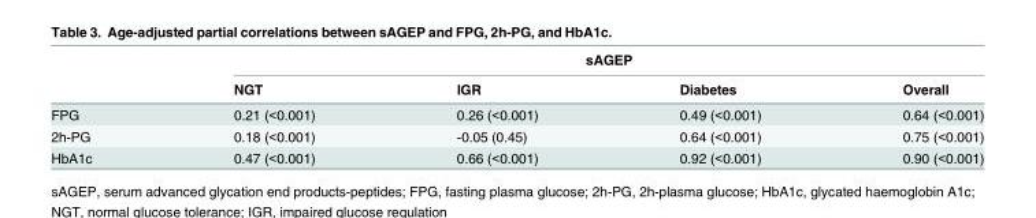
<table><thead><tr><td rowspan="2"></td><td colspan="4">sAGEP</td></tr><tr><td>NGT</td><td>IGR</td><td>Diabetes</td><td>Overall</td></tr></thead><tbody><tr><td>FPG</td><td>0.21 (&lt;0.001)</td><td>0.26 (&lt;0.001)</td><td>0.49 (&lt;0.001)</td><td>0.64 (&lt;0.001)</td></tr><tr><td>2h-PG</td><td>0.18 (&lt;0.001)</td><td>-0.05 (0.45)</td><td>0.64 (&lt;0.001)</td><td>0.75 (&lt;0.001)</td></tr><tr><td>HbA1c</td><td>0.47 (&lt;0.001)</td><td>0.66 (&lt;0.001)</td><td>0.92 (&lt;0.001)</td><td>0.90 (&lt;0.001)</td></tr></tbody></table>